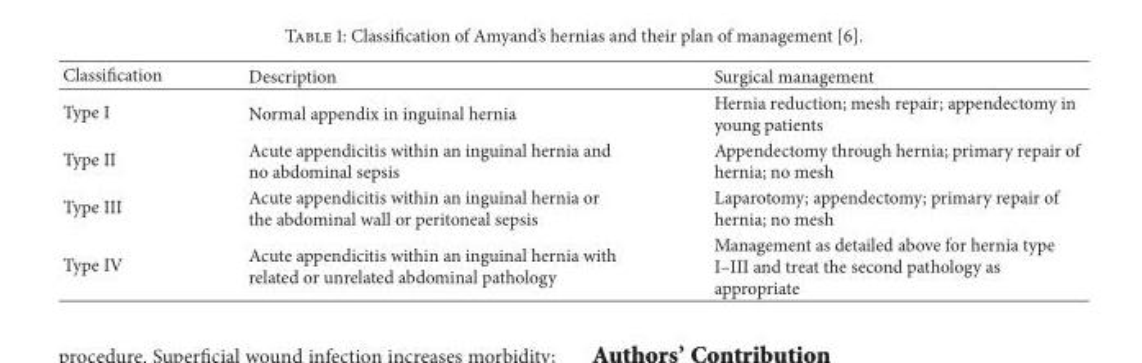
<table><thead><tr><td>Classification</td><td>Description</td><td>Surgical management</td></tr></thead><tbody><tr><td>Type I</td><td>Normal appendix in inguinal hernia</td><td>Hernia reduction; mesh repair; appendectomy in young patients</td></tr><tr><td>Type II</td><td>Acute appendicitis within an inguinal hernia and no abdominal sepsis</td><td>Appendectomy through hernia; primary repair of hernia; no mesh</td></tr><tr><td>Type III</td><td>Acute appendicitis within an inguinal hernia or the abdominal wall or peritoneal sepsis</td><td>Laparotomy; appendectomy; primary repair of hernia; no mesh</td></tr><tr><td>Type IV</td><td>Acute appendicitis within an inguinal hernia with related or unrelated abdominal pathology</td><td>Management as detailed above for hernia type I–III and treat the second pathology as appropriate</td></tr></tbody></table>